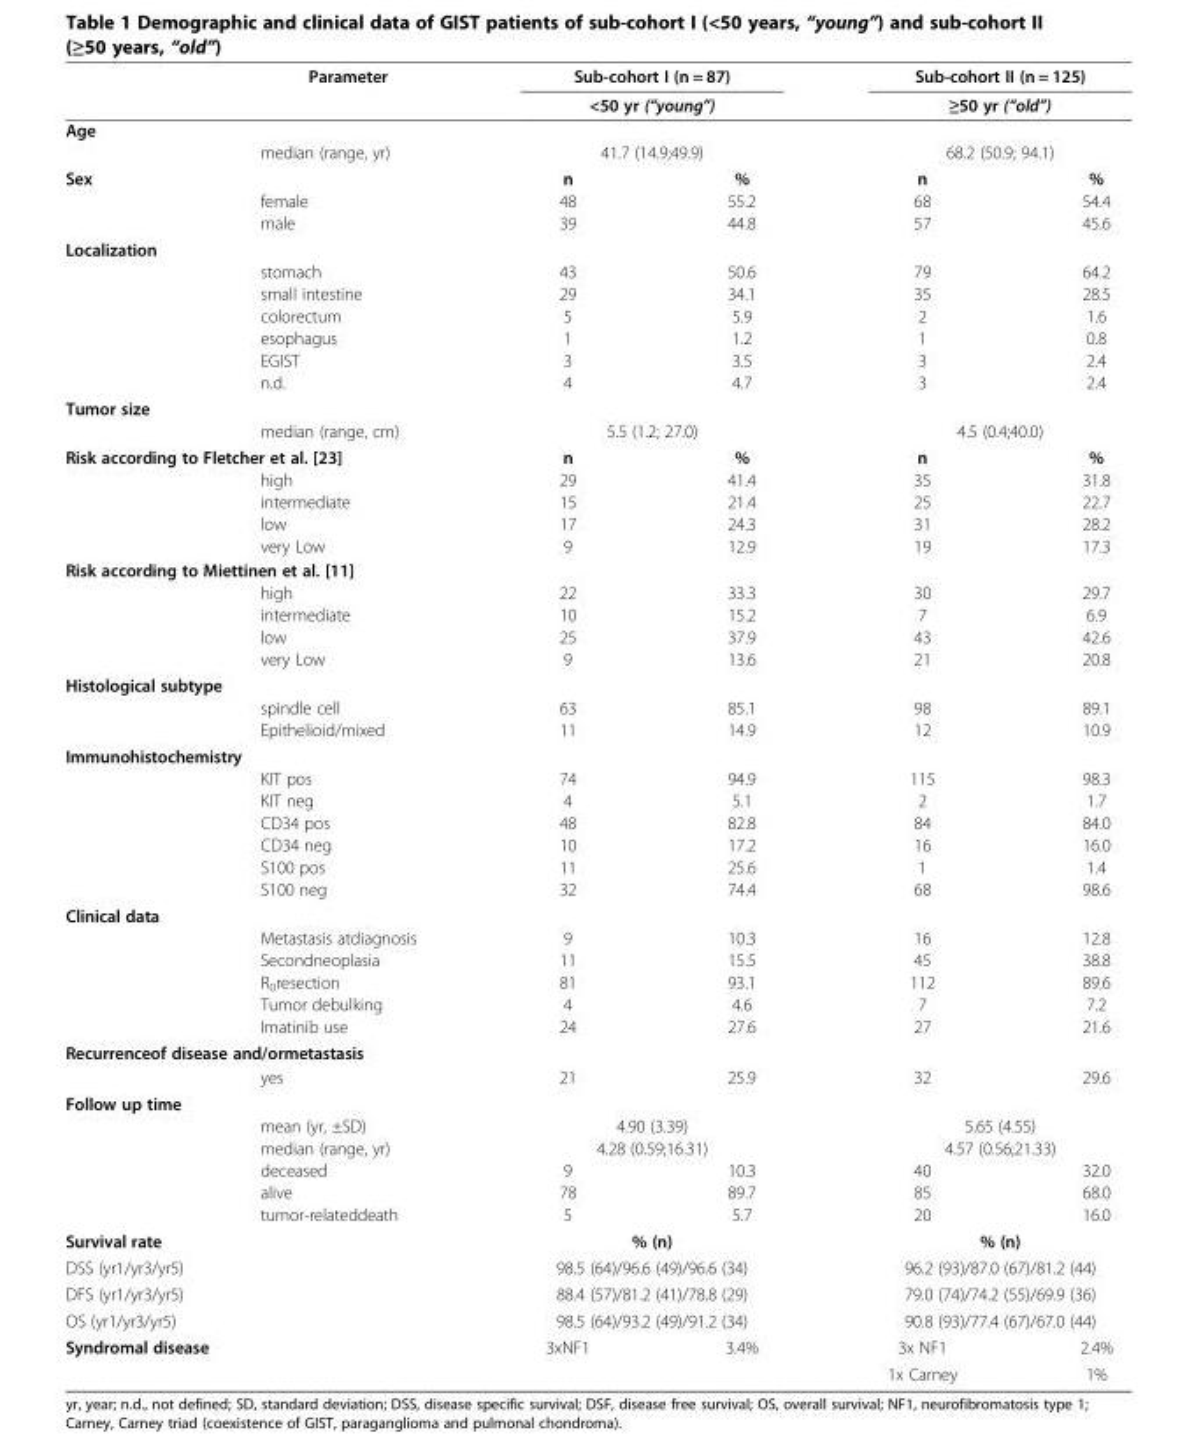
<table><thead><tr><td rowspan="3">Age</td><td rowspan="3">Parameter</td><td rowspan="2" colspan="2">Sub-cohort I (n = 87) &lt;50 yr (“young”)</td><td rowspan="2" colspan="2">Sub-cohort II (n = 125) ≥50 yr (“old”)</td></tr><tr></tr><tr><td></td><td></td><td></td><td></td></tr></thead><tbody><tr><td></td><td>median (range, yr)</td><td colspan="2">41.7 (14.9;49.9)</td><td colspan="2">68.2 (50.9; 94.1)</td></tr><tr><td colspan="2">Sex</td><td>n</td><td>%</td><td>n</td><td>%</td></tr><tr><td></td><td>female</td><td>48</td><td>55.2</td><td>68</td><td>54.4</td></tr><tr><td></td><td>male</td><td>39</td><td>44.8</td><td>57</td><td>45.6</td></tr><tr><td colspan="6">Localization</td></tr><tr><td></td><td>stomach</td><td>43</td><td>50.6</td><td>79</td><td>64.2</td></tr><tr><td></td><td>small intestine</td><td>29</td><td>34.1</td><td>35</td><td>28.5</td></tr><tr><td></td><td>colorectum</td><td>5</td><td>5.9</td><td>2</td><td>1.6</td></tr><tr><td></td><td>esophagus</td><td>1</td><td>1.2</td><td>1</td><td>0.8</td></tr><tr><td></td><td>EGIST</td><td>3</td><td>3.5</td><td>3</td><td>2.4</td></tr><tr><td></td><td>n.d.</td><td>4</td><td>4.7</td><td>3</td><td>2.4</td></tr><tr><td colspan="6">Tumor size</td></tr><tr><td></td><td>median (range, cm)</td><td colspan="2">5.5 (1.2; 27.0)</td><td colspan="2">4.5 (0.4;40.0)</td></tr><tr><td colspan="2">Risk according to Fletcher et al. [23]</td><td>n</td><td>%</td><td>n</td><td>%</td></tr><tr><td></td><td>high</td><td>29</td><td>41.4</td><td>35</td><td>31.8</td></tr><tr><td></td><td>intermediate</td><td>15</td><td>21.4</td><td>25</td><td>22.7</td></tr><tr><td></td><td>low</td><td>17</td><td>24.3</td><td>31</td><td>28.2</td></tr><tr><td></td><td>very Low</td><td>9</td><td>12.9</td><td>19</td><td>17.3</td></tr><tr><td colspan="6">Risk according to Miettinen et al. [11]</td></tr><tr><td></td><td>high</td><td>22</td><td>33.3</td><td>30</td><td>29.7</td></tr><tr><td></td><td>intermediate</td><td>10</td><td>15.2</td><td>7</td><td>6.9</td></tr><tr><td></td><td>low</td><td>25</td><td>37.9</td><td>43</td><td>42.6</td></tr><tr><td></td><td>very Low</td><td>9</td><td>13.6</td><td>21</td><td>20.8</td></tr><tr><td colspan="6">Histological subtype</td></tr><tr><td></td><td>spindle cell</td><td>63</td><td>85.1</td><td>98</td><td>89.1</td></tr><tr><td></td><td>Epithelioid/mixed</td><td>11</td><td>14.9</td><td>12</td><td>10.9</td></tr><tr><td colspan="6">Immunohistochemistry</td></tr><tr><td></td><td>KIT pos</td><td>74</td><td>94.9</td><td>115</td><td>98.3</td></tr><tr><td></td><td>KIT neg</td><td>4</td><td>5.1</td><td>2</td><td>1.7</td></tr><tr><td></td><td>CD34 pos</td><td>48</td><td>82.8</td><td>84</td><td>84.0</td></tr><tr><td></td><td>CD34 neg</td><td>10</td><td>17.2</td><td>16</td><td>16.0</td></tr><tr><td></td><td>S100 pos</td><td>11</td><td>25.6</td><td>1</td><td>1.4</td></tr><tr><td></td><td>S100 neg</td><td>32</td><td>74.4</td><td>68</td><td>98.6</td></tr><tr><td colspan="6">Clinical data</td></tr><tr><td></td><td>Metastasis atdiagnosis</td><td>9</td><td>10.3</td><td>16</td><td>12.8</td></tr><tr><td></td><td>Secondneoplasia</td><td>11</td><td>15.5</td><td>45</td><td>38.8</td></tr><tr><td></td><td>R<sub>0</sub>resection</td><td>81</td><td>93.1</td><td>112</td><td>89.6</td></tr><tr><td></td><td>Tumor debulking</td><td>4</td><td>4.6</td><td>7</td><td>7.2</td></tr><tr><td></td><td>Imatinib use</td><td>24</td><td>27.6</td><td>27</td><td>21.6</td></tr><tr><td colspan="6">Recurrenceof disease and/ormetastasis</td></tr><tr><td></td><td>yes</td><td>21</td><td>25.9</td><td>32</td><td>29.6</td></tr><tr><td colspan="6">Follow up time</td></tr><tr><td></td><td>mean (yr, ±SD)</td><td colspan="2">4.90 (3.39)</td><td colspan="2">5.65 (4.55)</td></tr><tr><td></td><td>median (range, yr)</td><td colspan="2">4.28 (0.59;16.31)</td><td colspan="2">4.57 (0.56;21.33)</td></tr><tr><td></td><td>deceased</td><td>9</td><td>10.3</td><td>40</td><td>32.0</td></tr><tr><td></td><td>alive</td><td>78</td><td>89.7</td><td>85</td><td>68.0</td></tr><tr><td></td><td>tumor-relateddeath</td><td>5</td><td>5.7</td><td>20</td><td>16.0</td></tr><tr><td colspan="2">Survival rate</td><td colspan="2">% (n)</td><td colspan="2">% (n)</td></tr><tr><td colspan="2">DSS (yr1/yr3/yr5)</td><td colspan="2">98.5 (64)/96.6 (49)/96.6 (34)</td><td colspan="2">96.2 (93)/87.0 (67)/81.2 (44)</td></tr><tr><td colspan="2">DFS (yr1/yr3/yr5)</td><td colspan="2">88.4 (57)/81.2 (41)/78.8 (29)</td><td colspan="2">79.0 (74)/74.2 (55)/69.9 (36)</td></tr><tr><td colspan="2">OS (yr1/yr3/yr5)</td><td colspan="2">98.5 (64)/93.2 (49)/91.2 (34)</td><td colspan="2">90.8 (93)/77.4 (67)/67.0 (44)</td></tr><tr><td colspan="2">Syndromal disease</td><td>3xNF1</td><td>3.4%</td><td>3x NF1</td><td>2.4%</td></tr><tr><td></td><td></td><td></td><td></td><td>1x Carney</td><td>1%</td></tr></tbody></table>